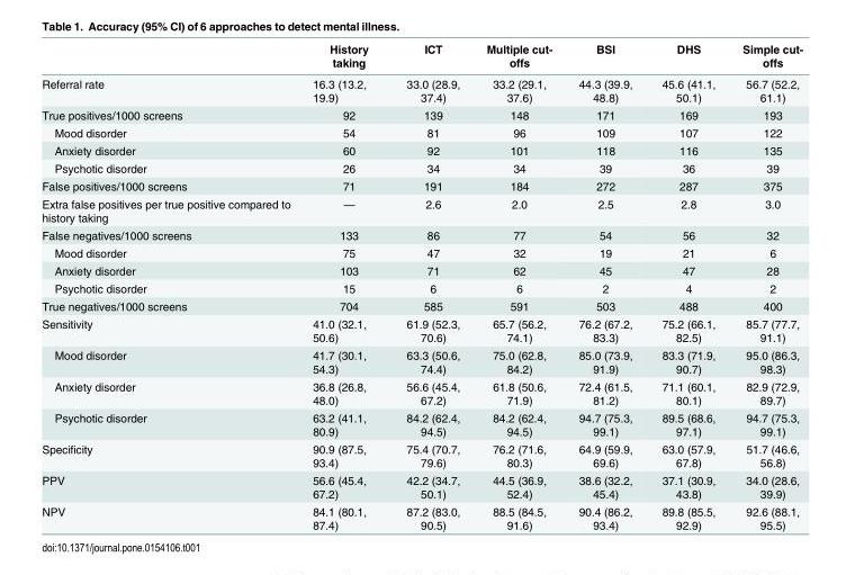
<table><thead><tr><td></td><td>History taking</td><td>ICT</td><td>Multiple cut- offs</td><td>BSI</td><td>DHS</td><td>Simple cut- offs</td></tr></thead><tbody><tr><td>Referral rate</td><td>16.3 (13.2, 19.9)</td><td>33.0 (28.9, 37.4)</td><td>33.2 (29.1, 37.6)</td><td>44.3 (39.9, 48.8)</td><td>45.6 (41.1, 50.1)</td><td>56.7 (52.2, 61.1)</td></tr><tr><td>True positives/1000 screens</td><td>92</td><td>139</td><td>148</td><td>171</td><td>169</td><td>193</td></tr><tr><td>Mood disorder</td><td>54</td><td>81</td><td>96</td><td>109</td><td>107</td><td>122</td></tr><tr><td>Anxiety disorder</td><td>60</td><td>92</td><td>101</td><td>118</td><td>116</td><td>135</td></tr><tr><td>Psychotic disorder</td><td>26</td><td>34</td><td>34</td><td>39</td><td>36</td><td>39</td></tr><tr><td>False positives/1000 screens</td><td>71</td><td>191</td><td>184</td><td>272</td><td>287</td><td>375</td></tr><tr><td>Extra false positives per true positive compared to history taking</td><td>—</td><td>2.6</td><td>2.0</td><td>2.5</td><td>2.8</td><td>3.0</td></tr><tr><td>False negatives/1000 screens</td><td>133</td><td>86</td><td>77</td><td>54</td><td>56</td><td>32</td></tr><tr><td>Mood disorder</td><td>75</td><td>47</td><td>32</td><td>19</td><td>21</td><td>6</td></tr><tr><td>Anxiety disorder</td><td>103</td><td>71</td><td>62</td><td>45</td><td>47</td><td>28</td></tr><tr><td>Psychotic disorder</td><td>15</td><td>6</td><td>6</td><td>2</td><td>4</td><td>2</td></tr><tr><td>True negatives/1000 screens</td><td>704</td><td>585</td><td>591</td><td>503</td><td>488</td><td>400</td></tr><tr><td>Sensitivity</td><td>41.0 (32.1, 50.6)</td><td>61.9 (52.3, 70.6)</td><td>65.7 (56.2, 74.1)</td><td>76.2 (67.2, 83.3)</td><td>75.2 (66.1, 82.5)</td><td>85.7 (77.7, 91.1)</td></tr><tr><td>Mood disorder</td><td>41.7 (30.1, 54.3)</td><td>63.3 (50.6, 74.4)</td><td>75.0 (62.8, 84.2)</td><td>85.0 (73.9, 91.9)</td><td>83.3 (71.9, 90.7)</td><td>95.0 (86.3, 98.3)</td></tr><tr><td>Anxiety disorder</td><td>36.8 (26.8, 48.0)</td><td>56.6 (45.4, 67.2)</td><td>61.8 (50.6, 71.9)</td><td>72.4 (61.5, 81.2)</td><td>71.1 (60.1, 80.1)</td><td>82.9 (72.9, 89.7)</td></tr><tr><td>Psychotic disorder</td><td>63.2 (41.1, 80.9)</td><td>84.2 (62.4, 94.5)</td><td>84.2 (62.4, 94.5)</td><td>94.7 (75.3, 99.1)</td><td>89.5 (68.6, 97.1)</td><td>94.7 (75.3, 99.1)</td></tr><tr><td>Specificity</td><td>90.9 (87.5, 93.4)</td><td>75.4 (70.7, 79.6)</td><td>76.2 (71.6, 80.3)</td><td>64.9 (59.9, 69.6)</td><td>63.0 (57.9, 67.8)</td><td>51.7 (46.6, 56.8)</td></tr><tr><td>PPV</td><td>56.6 (45.4, 67.2)</td><td>42.2 (34.7, 50.1)</td><td>44.5 (36.9, 52.4)</td><td>38.6 (32.2, 45.4)</td><td>37.1 (30.9, 43.8)</td><td>34.0 (28.6, 39.9)</td></tr><tr><td>NPV</td><td>84.1 (80.1, 87.4)</td><td>87.2 (83.0, 90.5)</td><td>88.5 (84.5, 91.6)</td><td>90.4 (86.2, 93.4)</td><td>89.8 (85.5, 92.9)</td><td>92.6 (88.1, 95.5)</td></tr></tbody></table>